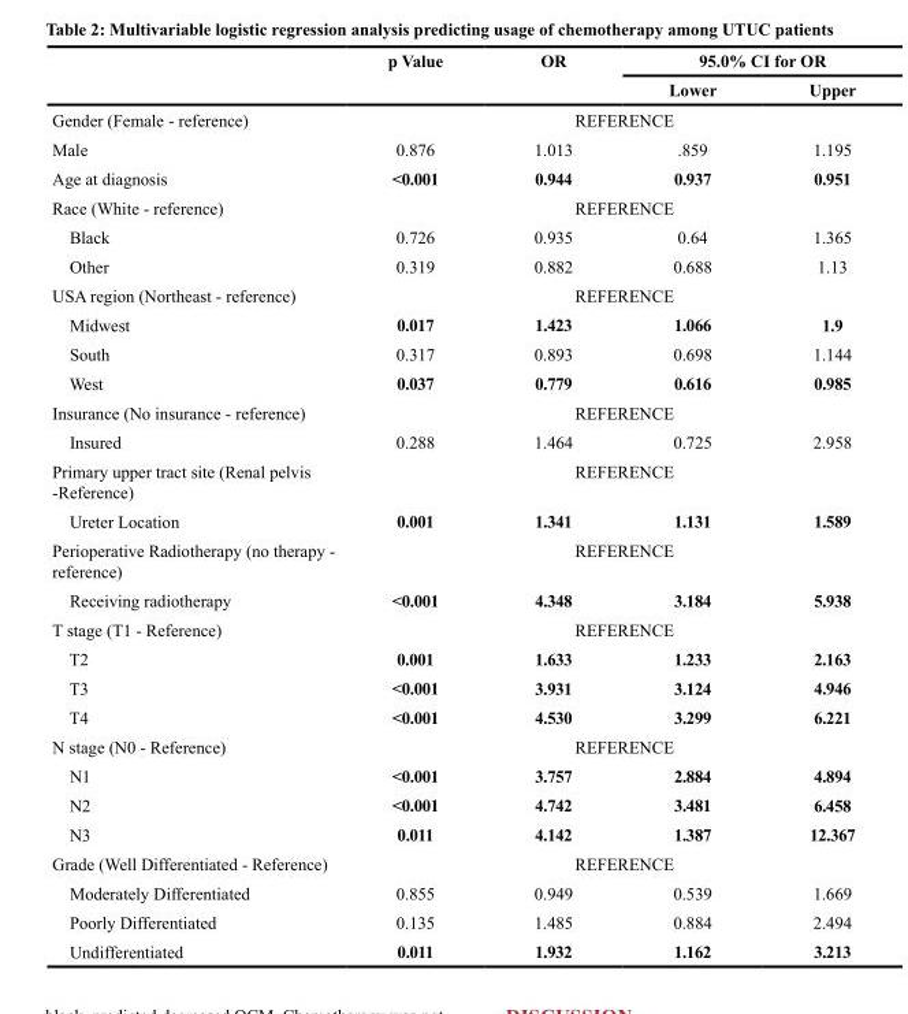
<table><thead><tr><td rowspan="2"></td><td rowspan="2">p Value</td><td rowspan="2">OR</td><td colspan="2">95.0% CI for OR</td></tr><tr><td>Lower</td><td>Upper</td></tr></thead><tbody><tr><td>Gender (Female - reference)</td><td colspan="4">REFERENCE</td></tr><tr><td>Male</td><td>0.876</td><td>1.013</td><td>.859</td><td>1.195</td></tr><tr><td>Age at diagnosis</td><td>&lt;0.001</td><td>0.944</td><td>0.937</td><td>0.951</td></tr><tr><td>Race (White - reference)</td><td colspan="4">REFERENCE</td></tr><tr><td>Black</td><td>0.726</td><td>0.935</td><td>0.64</td><td>1.365</td></tr><tr><td>Other</td><td>0.319</td><td>0.882</td><td>0.688</td><td>1.13</td></tr><tr><td>USA region (Northeast - reference)</td><td colspan="4">REFERENCE</td></tr><tr><td>Midwest</td><td>0.017</td><td>1.423</td><td>1.066</td><td>1.9</td></tr><tr><td>South</td><td>0.317</td><td>0.893</td><td>0.698</td><td>1.144</td></tr><tr><td>West</td><td>0.037</td><td>0.779</td><td>0.616</td><td>0.985</td></tr><tr><td>Insurance (No insurance - reference)</td><td colspan="4">REFERENCE</td></tr><tr><td>Insured</td><td>0.288</td><td>1.464</td><td>0.725</td><td>2.958</td></tr><tr><td>Primary upper tract site (Renal pelvis -Reference)</td><td colspan="4">REFERENCE</td></tr><tr><td>Ureter Location</td><td>0.001</td><td>1.341</td><td>1.131</td><td>1.589</td></tr><tr><td>Perioperative Radiotherapy (no therapy - reference)</td><td colspan="4">REFERENCE</td></tr><tr><td>Receiving radiotherapy</td><td>&lt;0.001</td><td>4.348</td><td>3.184</td><td>5.938</td></tr><tr><td>T stage (T1 - Reference)</td><td colspan="4">REFERENCE</td></tr><tr><td>T2</td><td>0.001</td><td>1.633</td><td>1.233</td><td>2.163</td></tr><tr><td>T3</td><td>&lt;0.001</td><td>3.931</td><td>3.124</td><td>4.946</td></tr><tr><td>T4</td><td>&lt;0.001</td><td>4.530</td><td>3.299</td><td>6.221</td></tr><tr><td>N stage (N0 - Reference)</td><td colspan="4">REFERENCE</td></tr><tr><td>N1</td><td>&lt;0.001</td><td>3.757</td><td>2.884</td><td>4.894</td></tr><tr><td>N2</td><td>&lt;0.001</td><td>4.742</td><td>3.481</td><td>6.458</td></tr><tr><td>N3</td><td>0.011</td><td>4.142</td><td>1.387</td><td>12.367</td></tr><tr><td>Grade (Well Differentiated - Reference)</td><td colspan="4">REFERENCE</td></tr><tr><td>Moderately Differentiated</td><td>0.855</td><td>0.949</td><td>0.539</td><td>1.669</td></tr><tr><td>Poorly Differentiated</td><td>0.135</td><td>1.485</td><td>0.884</td><td>2.494</td></tr><tr><td>Undifferentiated</td><td>0.011</td><td>1.932</td><td>1.162</td><td>3.213</td></tr></tbody></table>